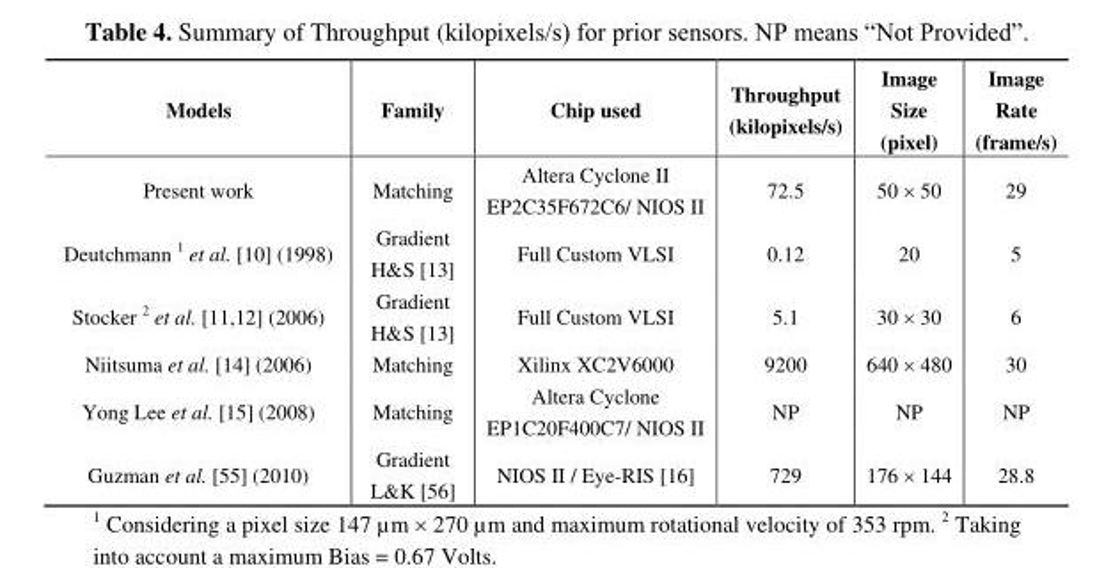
<table><thead><tr><td>Models</td><td>Family</td><td>Chip used</td><td>Throughput (kilopixels/s)</td><td>Image Size (pixel)</td><td>Image Rate (frame/s)</td></tr></thead><tbody><tr><td>Present work</td><td>Matching</td><td>Altera Cyclone II EP2C35F672C6/ NIOS II</td><td>72.5</td><td>50 × 50</td><td>29</td></tr><tr><td>Deutchmann 1 et al. [10] (1998)</td><td>Gradient H&amp;S [13]</td><td>Full Custom VLSI</td><td>0.12</td><td>20</td><td>5</td></tr><tr><td>Stocker 2 et al. [11,12] (2006)</td><td>Gradient H&amp;S [13]</td><td>Full Custom VLSI</td><td>5.1</td><td>30 × 30</td><td>6</td></tr><tr><td>Niitsuma et al. [14] (2006)</td><td>Matching</td><td>Xilinx XC2V6000</td><td>9200</td><td>640 × 480</td><td>30</td></tr><tr><td>Yong Lee et al. [15] (2008)</td><td>Matching</td><td>Altera Cyclone EP1C20F400C7/ NIOS II</td><td>NP</td><td>NP</td><td>NP</td></tr><tr><td>Guzman et al. [55] (2010)</td><td>Gradient L&amp;K [56]</td><td>NIOS II / Eye-RIS [16]</td><td>729</td><td>176 × 144</td><td>28.8</td></tr></tbody></table>